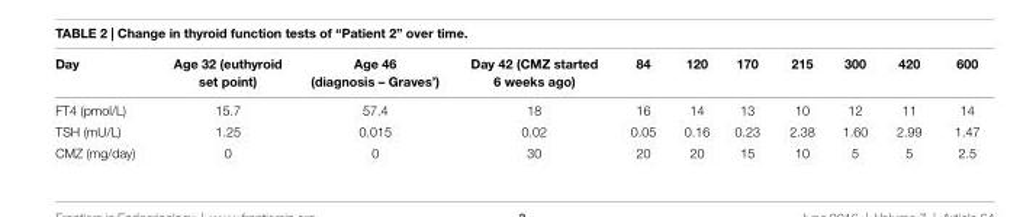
<table><thead><tr><td>Day</td><td>Age 32 (euthyroid set point)</td><td>Age 46 (diagnosis – Graves’)</td><td>Day 42 (CMZ started 6 weeks ago)</td><td>84</td><td>120</td><td>170</td><td>215</td><td>300</td><td>420</td><td>600</td></tr></thead><tbody><tr><td>FT4 (pmol/L)</td><td>15.7</td><td>57.4</td><td>18</td><td>16</td><td>14</td><td>13</td><td>10</td><td>12</td><td>11</td><td>14</td></tr><tr><td>TSH (mU/L)</td><td>1.25</td><td>0.015</td><td>0.02</td><td>0.05</td><td>0.16</td><td>0.23</td><td>2.38</td><td>1.60</td><td>2.99</td><td>1.47</td></tr><tr><td>CMZ (mg/day)</td><td>0</td><td>0</td><td>30</td><td>20</td><td>20</td><td>15</td><td>10</td><td>5</td><td>5</td><td>2.5</td></tr></tbody></table>